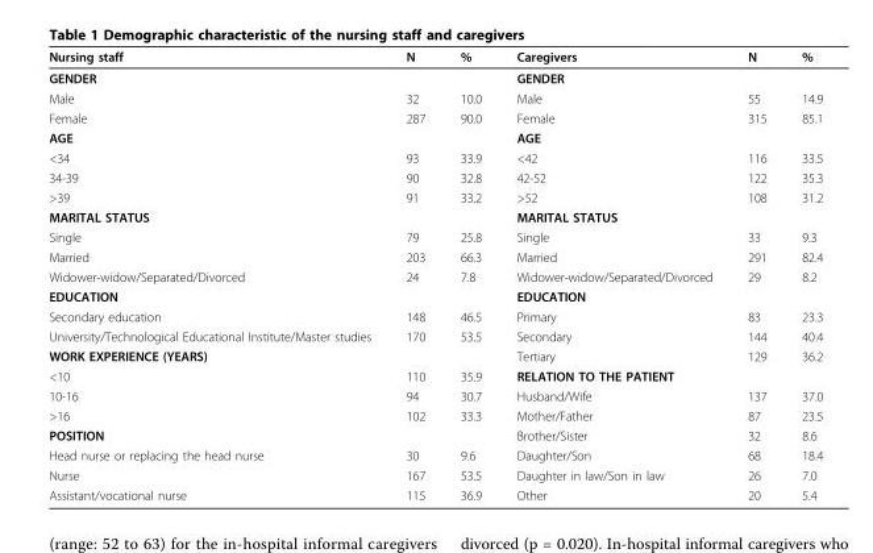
<table><thead><tr><td>Nursing staff</td><td>N</td><td>%</td><td>Caregivers</td><td>N</td><td>%</td></tr></thead><tbody><tr><td>GENDER</td><td></td><td></td><td>GENDER</td><td></td><td></td></tr><tr><td>Male</td><td>32</td><td>10.0</td><td>Male</td><td>55</td><td>14.9</td></tr><tr><td>Female</td><td>287</td><td>90.0</td><td>Female</td><td>315</td><td>85.1</td></tr><tr><td>AGE</td><td></td><td></td><td>AGE</td><td></td><td></td></tr><tr><td>&lt;34</td><td>93</td><td>33.9</td><td>&lt;42</td><td>116</td><td>33.5</td></tr><tr><td>34-39</td><td>90</td><td>32.8</td><td>42-52</td><td>122</td><td>35.3</td></tr><tr><td>&gt;39</td><td>91</td><td>33.2</td><td>&gt;52</td><td>108</td><td>31.2</td></tr><tr><td>MARITAL STATUS</td><td></td><td></td><td>MARITAL STATUS</td><td></td><td></td></tr><tr><td>Single</td><td>79</td><td>25.8</td><td>Single</td><td>33</td><td>9.3</td></tr><tr><td>Married</td><td>203</td><td>66.3</td><td>Married</td><td>291</td><td>82.4</td></tr><tr><td>Widower-widow/Separated/Divorced</td><td>24</td><td>7.8</td><td>Widower-widow/Separated/Divorced</td><td>29</td><td>8.2</td></tr><tr><td>EDUCATION</td><td></td><td></td><td>EDUCATION</td><td></td><td></td></tr><tr><td>Secondary education</td><td>148</td><td>46.5</td><td>Primary</td><td>83</td><td>23.3</td></tr><tr><td>University/Technological Educational Institute/Master studies</td><td>170</td><td>53.5</td><td>Secondary</td><td>144</td><td>40.4</td></tr><tr><td>WORK EXPERIENCE (YEARS)</td><td></td><td></td><td>Tertiary</td><td>129</td><td>36.2</td></tr><tr><td>&lt;10</td><td>110</td><td>35.9</td><td>RELATION TO THE PATIENT</td><td></td><td></td></tr><tr><td>10-16</td><td>94</td><td>30.7</td><td>Husband/Wife</td><td>137</td><td>37.0</td></tr><tr><td>&gt;16</td><td>102</td><td>33.3</td><td>Mother/Father</td><td>87</td><td>23.5</td></tr><tr><td>POSITION</td><td></td><td></td><td>Brother/Sister</td><td>32</td><td>8.6</td></tr><tr><td>Head nurse or replacing the head nurse</td><td>30</td><td>9.6</td><td>Daughter/Son</td><td>68</td><td>18.4</td></tr><tr><td>Nurse</td><td>167</td><td>53.5</td><td>Daughter in law/Son in law</td><td>26</td><td>7.0</td></tr><tr><td>Assistant/vocational nurse</td><td>115</td><td>36.9</td><td>Other</td><td>20</td><td>5.4</td></tr></tbody></table>